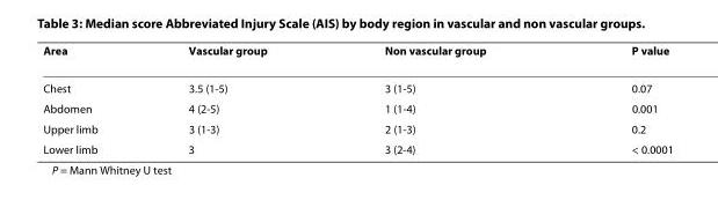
<table><thead><tr><td>Area</td><td>Vascular group</td><td>Non vascular group</td><td>P value</td></tr></thead><tbody><tr><td>Chest</td><td>3.5 (1-5)</td><td>3 (1-5)</td><td>0.07</td></tr><tr><td>Abdomen</td><td>4 (2-5)</td><td>1 (1-4)</td><td>0.001</td></tr><tr><td>Upper limb</td><td>3 (1-3)</td><td>2 (1-3)</td><td>0.2</td></tr><tr><td>Lower limb</td><td>3</td><td>3 (2-4)</td><td>&lt; 0.0001</td></tr></tbody></table>